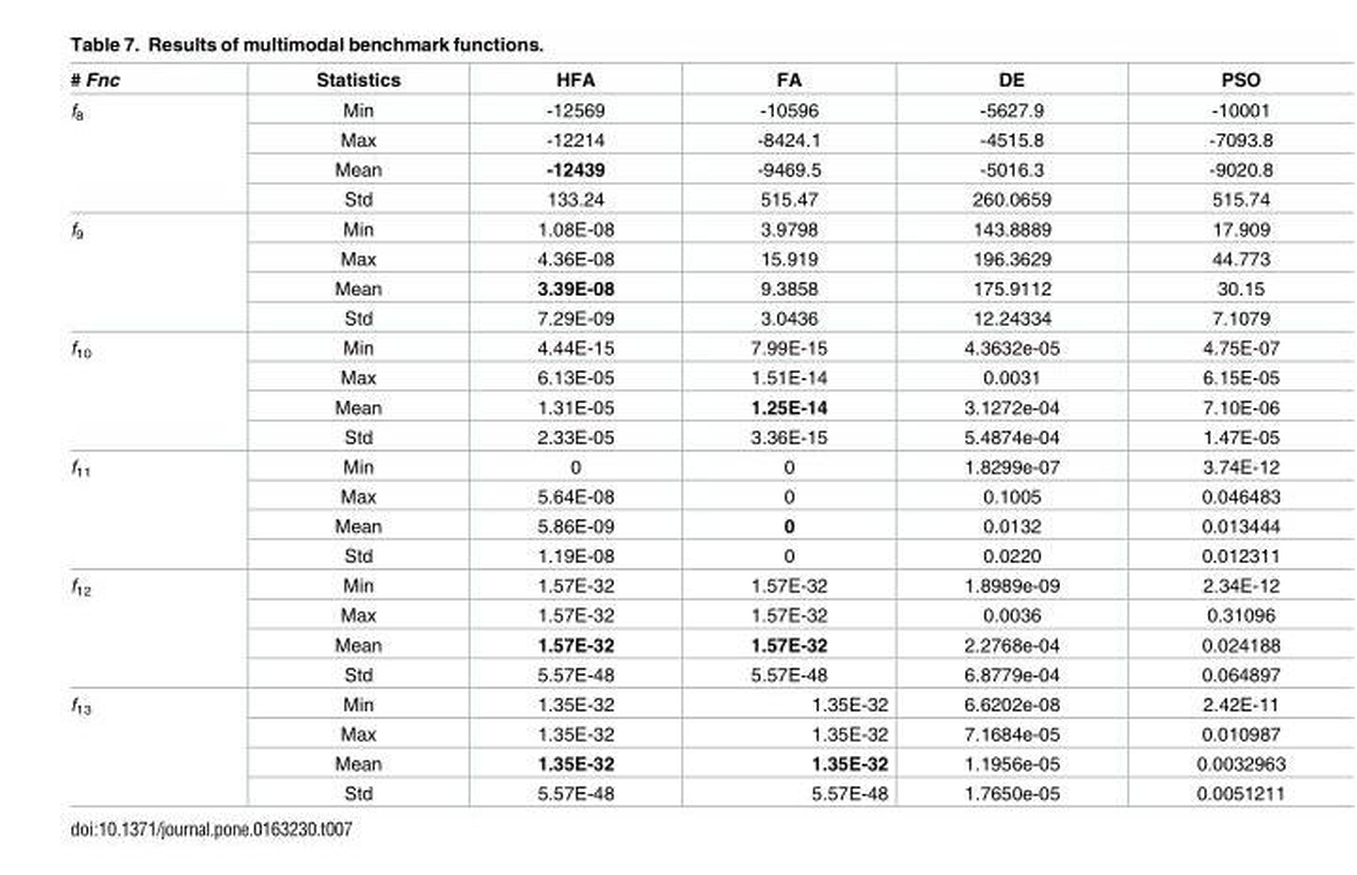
<table><thead><tr><td># Fnc</td><td>Statistics</td><td>HFA</td><td>FA</td><td>DE</td><td>PSO</td></tr></thead><tbody><tr><td rowspan="4">f<sub>8</sub></td><td>Min</td><td>-12569</td><td>-10596</td><td>-5627.9</td><td>-10001</td></tr><tr><td>Max</td><td>-12214</td><td>-8424.1</td><td>-4515.8</td><td>-7093.8</td></tr><tr><td>Mean</td><td>-12439</td><td>-9469.5</td><td>-5016.3</td><td>-9020.8</td></tr><tr><td>Std</td><td>133.24</td><td>515.47</td><td>260.0659</td><td>515.74</td></tr><tr><td rowspan="4">f<sub>9</sub></td><td>Min</td><td>1.08E-08</td><td>3.9798</td><td>143.8889</td><td>17.909</td></tr><tr><td>Max</td><td>4.36E-08</td><td>15.919</td><td>196.3629</td><td>44.773</td></tr><tr><td>Mean</td><td>3.39E-08</td><td>9.3858</td><td>175.9112</td><td>30.15</td></tr><tr><td>Std</td><td>7.29E-09</td><td>3.0436</td><td>12.24334</td><td>7.1079</td></tr><tr><td rowspan="4">f<sub>10</sub></td><td>Min</td><td>4.44E-15</td><td>7.99E-15</td><td>4.3632e-05</td><td>4.75E-07</td></tr><tr><td>Max</td><td>6.13E-05</td><td>1.51E-14</td><td>0.0031</td><td>6.15E-05</td></tr><tr><td>Mean</td><td>1.31E-05</td><td>1.25E-14</td><td>3.1272e-04</td><td>7.10E-06</td></tr><tr><td>Std</td><td>2.33E-05</td><td>3.36E-15</td><td>5.4874e-04</td><td>1.47E-05</td></tr><tr><td rowspan="4">f<sub>11</sub></td><td>Min</td><td>0</td><td>0</td><td>1.8299e-07</td><td>3.74E-12</td></tr><tr><td>Max</td><td>5.64E-08</td><td>0</td><td>0.1005</td><td>0.046483</td></tr><tr><td>Mean</td><td>5.86E-09</td><td>0</td><td>0.0132</td><td>0.013444</td></tr><tr><td>Std</td><td>1.19E-08</td><td>0</td><td>0.0220</td><td>0.012311</td></tr><tr><td rowspan="4">f<sub>12</sub></td><td>Min</td><td>1.57E-32</td><td>1.57E-32</td><td>1.8989e-09</td><td>2.34E-12</td></tr><tr><td>Max</td><td>1.57E-32</td><td>1.57E-32</td><td>0.0036</td><td>0.31096</td></tr><tr><td>Mean</td><td>1.57E-32</td><td>1.57E-32</td><td>2.2768e-04</td><td>0.024188</td></tr><tr><td>Std</td><td>5.57E-48</td><td>5.57E-48</td><td>6.8779e-04</td><td>0.064897</td></tr><tr><td rowspan="4">f<sub>13</sub></td><td>Min</td><td>1.35E-32</td><td>1.35E-32</td><td>6.6202e-08</td><td>2.42E-11</td></tr><tr><td>Max</td><td>1.35E-32</td><td>1.35E-32</td><td>7.1684e-05</td><td>0.010987</td></tr><tr><td>Mean</td><td>1.35E-32</td><td>1.35E-32</td><td>1.1956e-05</td><td>0.0032963</td></tr><tr><td>Std</td><td>5.57E-48</td><td>5.57E-48</td><td>1.7650e-05</td><td>0.0051211</td></tr></tbody></table>